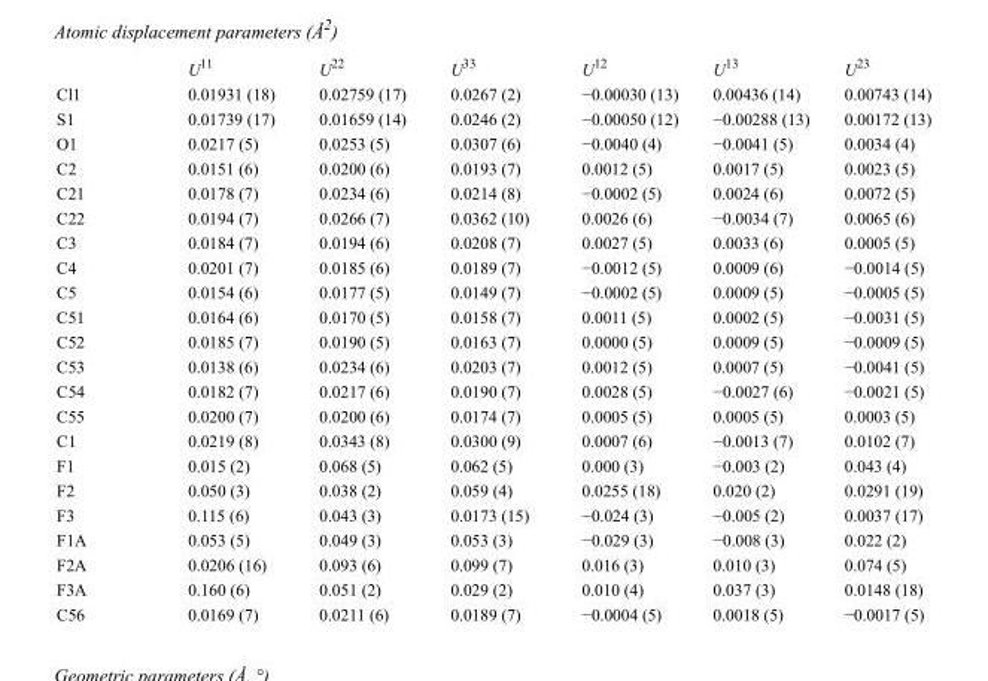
<table><thead><tr><td></td><td>U<sup>11</sup></td><td>U<sup>22</sup></td><td>U<sup>33</sup></td><td>U<sup>12</sup></td><td>U<sup>13</sup></td><td>U<sup>23</sup></td></tr></thead><tbody><tr><td>Cl1</td><td>0.01931 (18)</td><td>0.02759 (17)</td><td>0.0267 (2)</td><td>−0.00030 (13)</td><td>0.00436 (14)</td><td>0.00743 (14)</td></tr><tr><td>S1</td><td>0.01739 (17)</td><td>0.01659 (14)</td><td>0.0246 (2)</td><td>−0.00050 (12)</td><td>−0.00288 (13)</td><td>0.00172 (13)</td></tr><tr><td>O1</td><td>0.0217 (5)</td><td>0.0253 (5)</td><td>0.0307 (6)</td><td>−0.0040 (4)</td><td>−0.0041 (5)</td><td>0.0034 (4)</td></tr><tr><td>C2</td><td>0.0151 (6)</td><td>0.0200 (6)</td><td>0.0193 (7)</td><td>0.0012 (5)</td><td>0.0017 (5)</td><td>0.0023 (5)</td></tr><tr><td>C21</td><td>0.0178 (7)</td><td>0.0234 (6)</td><td>0.0214 (8)</td><td>−0.0002 (5)</td><td>0.0024 (6)</td><td>0.0072 (5)</td></tr><tr><td>C22</td><td>0.0194 (7)</td><td>0.0266 (7)</td><td>0.0362 (10)</td><td>0.0026 (6)</td><td>−0.0034 (7)</td><td>0.0065 (6)</td></tr><tr><td>C3</td><td>0.0184 (7)</td><td>0.0194 (6)</td><td>0.0208 (7)</td><td>0.0027 (5)</td><td>0.0033 (6)</td><td>0.0005 (5)</td></tr><tr><td>C4</td><td>0.0201 (7)</td><td>0.0185 (6)</td><td>0.0189 (7)</td><td>−0.0012 (5)</td><td>0.0009 (6)</td><td>−0.0014 (5)</td></tr><tr><td>C5</td><td>0.0154 (6)</td><td>0.0177 (5)</td><td>0.0149 (7)</td><td>−0.0002 (5)</td><td>0.0009 (5)</td><td>−0.0005 (5)</td></tr><tr><td>C51</td><td>0.0164 (6)</td><td>0.0170 (5)</td><td>0.0158 (7)</td><td>0.0011 (5)</td><td>0.0002 (5)</td><td>−0.0031 (5)</td></tr><tr><td>C52</td><td>0.0185 (7)</td><td>0.0190 (5)</td><td>0.0163 (7)</td><td>0.0000 (5)</td><td>0.0009 (5)</td><td>−0.0009 (5)</td></tr><tr><td>C53</td><td>0.0138 (6)</td><td>0.0234 (6)</td><td>0.0203 (7)</td><td>0.0012 (5)</td><td>0.0007 (5)</td><td>−0.0041 (5)</td></tr><tr><td>C54</td><td>0.0182 (7)</td><td>0.0217 (6)</td><td>0.0190 (7)</td><td>0.0028 (5)</td><td>−0.0027 (6)</td><td>−0.0021 (5)</td></tr><tr><td>C55</td><td>0.0200 (7)</td><td>0.0200 (6)</td><td>0.0174 (7)</td><td>0.0005 (5)</td><td>0.0005 (5)</td><td>0.0003 (5)</td></tr><tr><td>C1</td><td>0.0219 (8)</td><td>0.0343 (8)</td><td>0.0300 (9)</td><td>0.0007 (6)</td><td>−0.0013 (7)</td><td>0.0102 (7)</td></tr><tr><td>F1</td><td>0.015 (2)</td><td>0.068 (5)</td><td>0.062 (5)</td><td>0.000 (3)</td><td>−0.003 (2)</td><td>0.043 (4)</td></tr><tr><td>F2</td><td>0.050 (3)</td><td>0.038 (2)</td><td>0.059 (4)</td><td>0.0255 (18)</td><td>0.020 (2)</td><td>0.0291 (19)</td></tr><tr><td>F3</td><td>0.115 (6)</td><td>0.043 (3)</td><td>0.0173 (15)</td><td>−0.024 (3)</td><td>−0.005 (2)</td><td>0.0037 (17)</td></tr><tr><td>F1A</td><td>0.053 (5)</td><td>0.049 (3)</td><td>0.053 (3)</td><td>−0.029 (3)</td><td>−0.008 (3)</td><td>0.022 (2)</td></tr><tr><td>F2A</td><td>0.0206 (16)</td><td>0.093 (6)</td><td>0.099 (7)</td><td>0.016 (3)</td><td>0.010 (3)</td><td>0.074 (5)</td></tr><tr><td>F3A</td><td>0.160 (6)</td><td>0.051 (2)</td><td>0.029 (2)</td><td>0.010 (4)</td><td>0.037 (3)</td><td>0.0148 (18)</td></tr><tr><td>C56</td><td>0.0169 (7)</td><td>0.0211 (6)</td><td>0.0189 (7)</td><td>−0.0004 (5)</td><td>0.0018 (5)</td><td>−0.0017 (5)</td></tr></tbody></table>